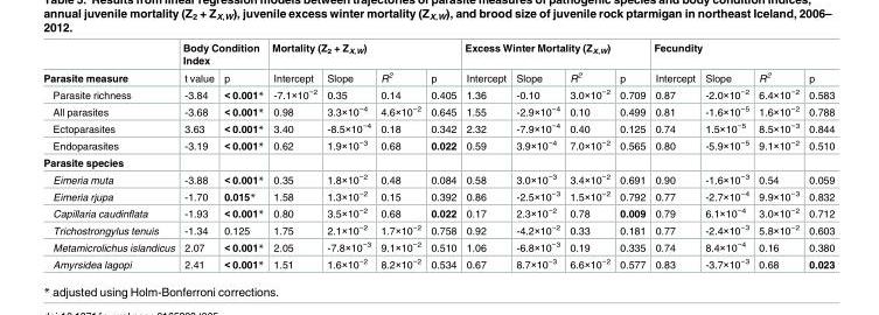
<table><thead><tr><td rowspan="2">Parasite measure</td><td colspan="2">Body Condition Index</td><td colspan="4">Mortality (Z<sub>2</sub> + Z<sub>X,W</sub>)</td><td colspan="4">Excess Winter Mortality (Z<sub>X,W</sub>)</td><td colspan="4">Fecundity</td></tr><tr><td>t value</td><td>p</td><td>Intercept</td><td>Slope</td><td>R<sup>2</sup></td><td>p</td><td>Intercept</td><td>Slope</td><td>R<sup>2</sup></td><td>p</td><td>Intercept</td><td>Slope</td><td>R<sup>2</sup></td><td>p</td></tr></thead><tbody><tr><td>Parasite richness</td><td>-3.84</td><td>&lt; 0.001*</td><td>-7.1×10<sup>−2</sup></td><td>0.35</td><td>0.14</td><td>0.405</td><td>1.36</td><td>-0.10</td><td>3.0×10<sup>−2</sup></td><td>0.709</td><td>0.87</td><td>-2.0×10<sup>−2</sup></td><td>6.4×10<sup>−2</sup></td><td>0.583</td></tr><tr><td>All parasites</td><td>-3.68</td><td>&lt; 0.001*</td><td>0.98</td><td>3.3×10<sup>−4</sup></td><td>4.6×10<sup>−2</sup></td><td>0.645</td><td>1.55</td><td>-2.9×10<sup>−4</sup></td><td>0.10</td><td>0.499</td><td>0.81</td><td>-1.6×10<sup>−5</sup></td><td>1.6×10<sup>−2</sup></td><td>0.788</td></tr><tr><td>Ectoparasites</td><td>3.63</td><td>&lt; 0.001*</td><td>3.40</td><td>-8.5×10<sup>−4</sup></td><td>0.18</td><td>0.342</td><td>2.32</td><td>-7.9×10<sup>−4</sup></td><td>0.40</td><td>0.125</td><td>0.74</td><td>1.5×10<sup>−5</sup></td><td>8.5×10<sup>−3</sup></td><td>0.844</td></tr><tr><td>Endoparasites</td><td>-3.19</td><td>&lt; 0.001*</td><td>0.62</td><td>1.9×10<sup>−3</sup></td><td>0.68</td><td>0.022</td><td>0.59</td><td>3.9×10<sup>−4</sup></td><td>7.0×10<sup>−2</sup></td><td>0.565</td><td>0.80</td><td>-5.9×10<sup>−5</sup></td><td>9.1×10<sup>−2</sup></td><td>0.510</td></tr><tr><td colspan="15">Parasite species</td></tr><tr><td>Eimeria muta</td><td>-3.88</td><td>&lt; 0.001*</td><td>0.35</td><td>1.8×10<sup>−2</sup></td><td>0.48</td><td>0.084</td><td>0.58</td><td>3.0×10<sup>−3</sup></td><td>3.4×10<sup>−2</sup></td><td>0.691</td><td>0.90</td><td>-1.6×10<sup>−3</sup></td><td>0.54</td><td>0.059</td></tr><tr><td>Eimeria rjupa</td><td>-1.70</td><td>0.015*</td><td>1.58</td><td>1.3×10<sup>−2</sup></td><td>0.15</td><td>0.392</td><td>0.86</td><td>-2.5×10<sup>−3</sup></td><td>1.5×10<sup>−2</sup></td><td>0.792</td><td>0.77</td><td>-2.7×10<sup>−4</sup></td><td>9.9×10<sup>−3</sup></td><td>0.832</td></tr><tr><td>Capillaria caudinflata</td><td>-1.93</td><td>&lt; 0.001*</td><td>0.80</td><td>3.5×10<sup>−2</sup></td><td>0.68</td><td>0.022</td><td>0.17</td><td>2.3×10<sup>−2</sup></td><td>0.78</td><td>0.009</td><td>0.79</td><td>6.1×10<sup>−4</sup></td><td>3.0×10<sup>−2</sup></td><td>0.712</td></tr><tr><td>Trichostrongylus tenuis</td><td>-1.34</td><td>0.125</td><td>1.75</td><td>2.1×10<sup>−2</sup></td><td>1.7×10<sup>−2</sup></td><td>0.758</td><td>0.92</td><td>-4.2×10<sup>−2</sup></td><td>0.33</td><td>0.181</td><td>0.77</td><td>-2.4×10<sup>−3</sup></td><td>5.8×10<sup>−2</sup></td><td>0.603</td></tr><tr><td>Metamicrolichus islandicus</td><td>2.07</td><td>&lt; 0.001*</td><td>2.05</td><td>-7.8×10<sup>−3</sup></td><td>9.1×10<sup>−2</sup></td><td>0.510</td><td>1.06</td><td>-6.8×10<sup>−3</sup></td><td>0.19</td><td>0.335</td><td>0.74</td><td>8.4×10<sup>−4</sup></td><td>0.16</td><td>0.380</td></tr><tr><td>Amyrsidea lagopi</td><td>2.41</td><td>&lt; 0.001*</td><td>1.51</td><td>1.6×10<sup>−2</sup></td><td>8.2×10<sup>−2</sup></td><td>0.534</td><td>0.67</td><td>8.7×10<sup>−3</sup></td><td>6.6×10<sup>−2</sup></td><td>0.577</td><td>0.83</td><td>-3.7×10<sup>−3</sup></td><td>0.68</td><td>0.023</td></tr></tbody></table>